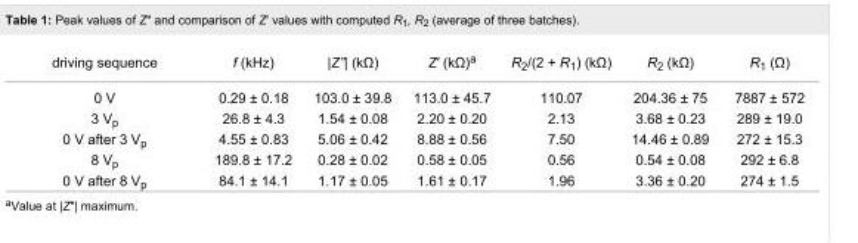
<table><tbody><tr><td>driving sequence</td><td>f (kHz)</td><td>|Z”| (kΩ)</td><td>Z′ (kΩ)<sup>a</sup></td><td>R<sub>2</sub>/(2 + R<sub>1</sub>) (kΩ)</td><td>R<sub>2</sub> (kΩ)</td><td>R<sub>1</sub> (Ω)</td></tr><tr><td>0 V</td><td>0.29 ± 0.18</td><td>103.0 ± 39.8</td><td>113.0 ± 45.7</td><td>110.07</td><td>204.36 ± 75</td><td>7887 ± 572</td></tr><tr><td>3 V<sub>p</sub></td><td>26.8 ± 4.3</td><td>1.54 ± 0.08</td><td>2.20 ± 0.20</td><td>2.13</td><td>3.68 ± 0.23</td><td>289 ± 19.0</td></tr><tr><td>0 V after 3 V<sub>p</sub></td><td>4.55 ± 0.83</td><td>5.06 ± 0.42</td><td>8.88 ± 0.56</td><td>7.50</td><td>14.46 ± 0.89</td><td>272 ± 15.3</td></tr><tr><td>8 V<sub>p</sub></td><td>189.8 ± 17.2</td><td>0.28 ± 0.02</td><td>0.58 ± 0.05</td><td>0.56</td><td>0.54 ± 0.08</td><td>292 ± 6.8</td></tr><tr><td>0 V after 8 V<sub>p</sub></td><td>84.1 ± 14.1</td><td>1.17 ± 0.05</td><td>1.61 ± 0.17</td><td>1.96</td><td>3.36 ± 0.20</td><td>274 ± 1.5</td></tr></tbody></table>